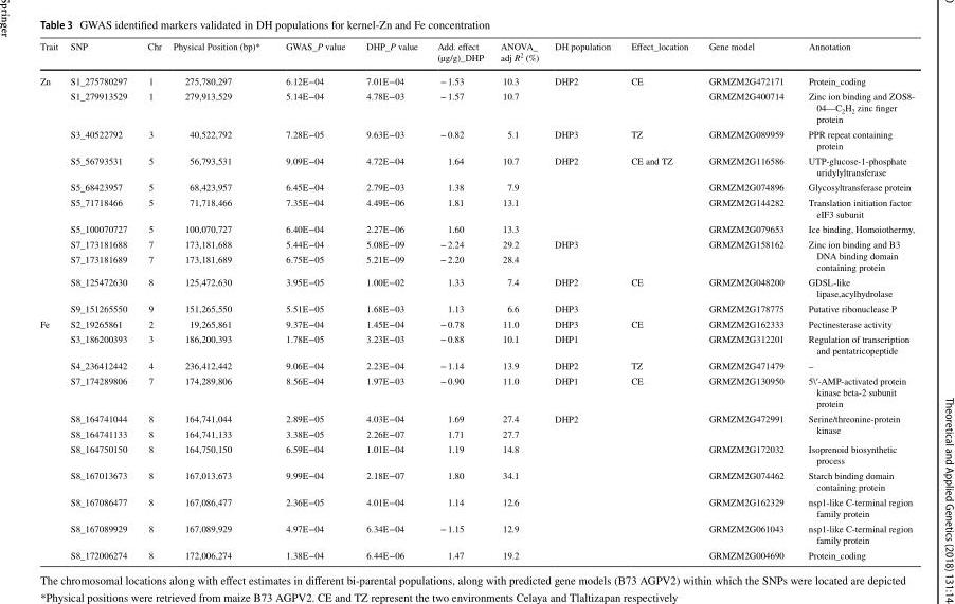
<table><thead><tr><td>Trait</td><td>SNP</td><td>Chr</td><td>Physical Position (bp)*</td><td>GWAS_P value</td><td>DHP_P value</td><td>Add. effect (µg/g)_DHP</td><td>ANOVA_ adj R<sup>2</sup> (%)</td><td>DH population</td><td>Effect_location</td><td>Gene model</td><td>Annotation</td></tr></thead><tbody><tr><td rowspan="11">Zn</td><td>S1_275780297</td><td>1</td><td>275,780,297</td><td>6.12E−04</td><td>7.01E−04</td><td>− 1.53</td><td>10.3</td><td rowspan="2">DHP2</td><td rowspan="2">CE</td><td>GRMZM2G472171</td><td>Protein_coding</td></tr><tr><td>S1_279913529</td><td>1</td><td>279,913,529</td><td>5.14E−04</td><td>4.78E−03</td><td>− 1.57</td><td>10.7</td><td>GRMZM2G400714</td><td>Zinc ion binding and ZOS8- 04—C<sub>2</sub>H<sub>2</sub> zinc finger protein</td></tr><tr><td>S3_40522792</td><td>3</td><td>40,522,792</td><td>7.28E−05</td><td>9.63E−03</td><td>− 0.82</td><td>5.1</td><td>DHP3</td><td>TZ</td><td>GRMZM2G089959</td><td>PPR repeat containing protein</td></tr><tr><td>S5_56793531</td><td>5</td><td>56,793,531</td><td>9.09E−04</td><td>4.72E−04</td><td>1.64</td><td>10.7</td><td rowspan="4">DHP2</td><td rowspan="6">CE and TZ</td><td>GRMZM2G116586</td><td>UTP-glucose-1-phosphate uridylyltransferase</td></tr><tr><td>S5_68423957</td><td>5</td><td>68,423,957</td><td>6.45E−04</td><td>2.79E−03</td><td>1.38</td><td>7.9</td><td>GRMZM2G074896</td><td>Glycosyltransferase protein</td></tr><tr><td>S5_71718466</td><td>5</td><td>71,718,466</td><td>7.35E−04</td><td>4.49E−06</td><td>1.81</td><td>13.1</td><td>GRMZM2G144282</td><td>Translation initiation factor eIF3 subunit</td></tr><tr><td>S5_100070727</td><td>5</td><td>100,070,727</td><td>6.40E−04</td><td>2.27E−06</td><td>1.60</td><td>13.3</td><td>GRMZM2G079653</td><td>Ice binding, Homoiothermy,</td></tr><tr><td>S7_173181688</td><td>7</td><td>173,181,688</td><td>5.44E−04</td><td>5.08E−09</td><td>− 2.24</td><td>29.2</td><td rowspan="2">DHP3</td><td rowspan="2">GRMZM2G158162</td><td rowspan="2">Zinc ion binding and B3 DNA binding domain containing protein</td></tr><tr><td>S7_173181689</td><td>7</td><td>173,181,689</td><td>6.75E−05</td><td>5.21E−09</td><td>− 2.20</td><td>28.4</td></tr><tr><td>S8_125472630</td><td>8</td><td>125,472,630</td><td>3.95E−05</td><td>1.00E−02</td><td>1.33</td><td>7.4</td><td>DHP2</td><td rowspan="2">CE</td><td>GRMZM2G048200</td><td>GDSL-like lipase,acylhydrolase</td></tr><tr><td>S9_151265550</td><td>9</td><td>151,265,550</td><td>5.51E−05</td><td>1.68E−03</td><td>1.13</td><td>6.6</td><td>DHP3</td><td>GRMZM2G178775</td><td>Putative ribonuclease P</td></tr><tr><td rowspan="11">Fe</td><td>S2_19265861</td><td>2</td><td>19,265,861</td><td>9.37E−04</td><td>1.45E−04</td><td>− 0.78</td><td>11.0</td><td>DHP3</td><td rowspan="2">CE</td><td>GRMZM2G162333</td><td>Pectinesterase activity</td></tr><tr><td>S3_186200393</td><td>3</td><td>186,200,393</td><td>1.78E−05</td><td>3.23E−03</td><td>− 0.88</td><td>10.1</td><td>DHP1</td><td>GRMZM2G312201</td><td>Regulation of transcription and pentatricopeptide</td></tr><tr><td>S4_236412442</td><td>4</td><td>236,412,442</td><td>9.06E−04</td><td>2.23E−04</td><td>− 1.14</td><td>13.9</td><td>DHP2</td><td>TZ</td><td>GRMZM2G471479</td><td>–</td></tr><tr><td>S7_174289806</td><td>7</td><td>174,289,806</td><td>8.56E−04</td><td>1.97E−03</td><td>− 0.90</td><td>11.0</td><td>DHP1</td><td rowspan="8">CE</td><td>GRMZM2G130950</td><td>5\\u2032-AMP-activated protein kinase beta-2 subunit protein</td></tr><tr><td>S8_164741044</td><td>8</td><td>164,741,044</td><td>2.89E−05</td><td>4.03E−04</td><td>1.69</td><td>27.4</td><td rowspan="7">DHP2</td><td rowspan="2">GRMZM2G472991</td><td rowspan="2">Serine/threonine-protein kinase</td></tr><tr><td>S8_164741133</td><td>8</td><td>164,741,133</td><td>3.38E−05</td><td>2.26E−07</td><td>1.71</td><td>27.7</td></tr><tr><td>S8_164750150</td><td>8</td><td>164,750,150</td><td>6.59E−04</td><td>1.01E−04</td><td>1.19</td><td>14.8</td><td>GRMZM2G172032</td><td>Isoprenoid biosynthetic process</td></tr><tr><td>S8_167013673</td><td>8</td><td>167,013,673</td><td>9.99E−04</td><td>2.18E−07</td><td>1.80</td><td>34.1</td><td>GRMZM2G074462</td><td>Starch binding domain containing protein</td></tr><tr><td>S8_167086477</td><td>8</td><td>167,086,477</td><td>2.36E−05</td><td>4.01E−04</td><td>1.14</td><td>12.6</td><td>GRMZM2G162329</td><td>nsp1-like C-terminal region family protein</td></tr><tr><td>S8_167089929</td><td>8</td><td>167,089,929</td><td>4.97E−04</td><td>6.34E−04</td><td>− 1.15</td><td>12.9</td><td>GRMZM2G061043</td><td>nsp1-like C-terminal region family protein</td></tr><tr><td>S8_172006274</td><td>8</td><td>172,006,274</td><td>1.38E−04</td><td>6.44E−06</td><td>1.47</td><td>19.2</td><td>GRMZM2G004690</td><td>Protein_coding</td></tr></tbody></table>